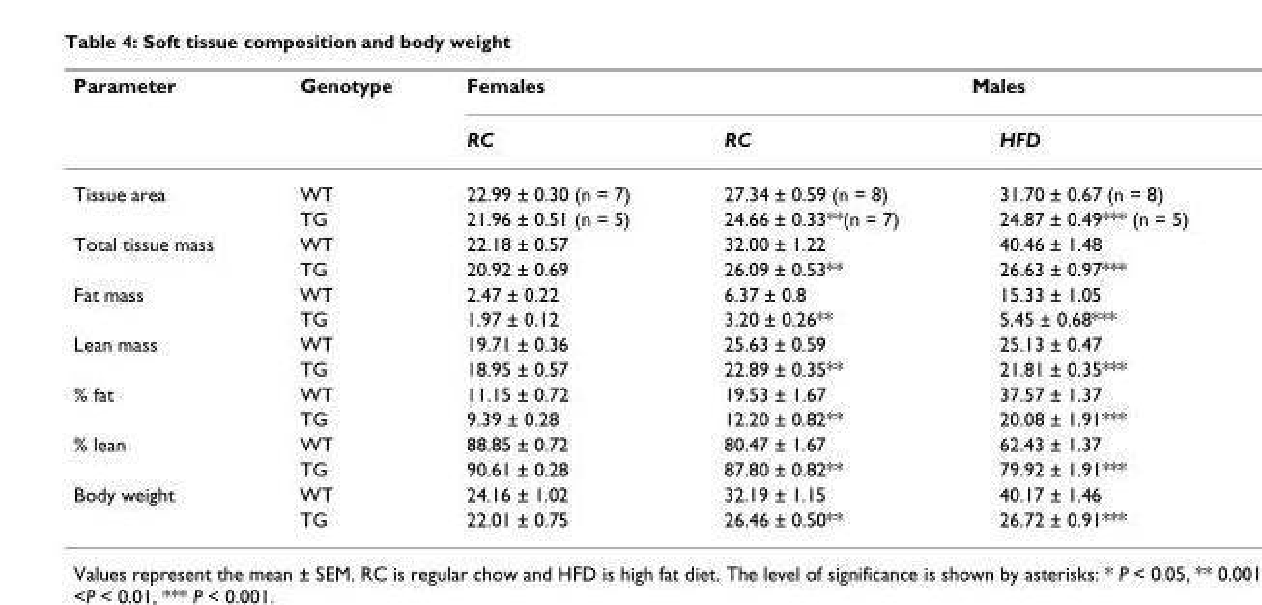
<table><thead><tr><td rowspan="2">Parameter</td><td rowspan="2">Genotype</td><td rowspan="2">Females RC</td><td colspan="2">Males</td></tr><tr><td>RC</td><td>HFD</td></tr></thead><tbody><tr><td rowspan="2">Tissue area</td><td>WT</td><td>22.99 ± 0.30 (n = 7)</td><td>27.34 ± 0.59 (n = 8)</td><td>31.70 ± 0.67 (n = 8)</td></tr><tr><td>TG</td><td>21.96 ± 0.51 (n = 5)</td><td>24.66 ± 0.33**(n = 7)</td><td>24.87 ± 0.49*** (n = 5)</td></tr><tr><td rowspan="2">Total tissue mass</td><td>WT</td><td>22.18 ± 0.57</td><td>32.00 ± 1.22</td><td>40.46 ± 1.48</td></tr><tr><td>TG</td><td>20.92 ± 0.69</td><td>26.09 ± 0.53**</td><td>26.63 ± 0.97***</td></tr><tr><td rowspan="2">Fat mass</td><td>WT</td><td>2.47 ± 0.22</td><td>6.37 ± 0.8</td><td>15.33 ± 1.05</td></tr><tr><td>TG</td><td>1.97 ± 0.12</td><td>3.20 ± 0.26**</td><td>5.45 ± 0.68***</td></tr><tr><td rowspan="2">Lean mass</td><td>WT</td><td>19.71 ± 0.36</td><td>25.63 ± 0.59</td><td>25.13 ± 0.47</td></tr><tr><td>TG</td><td>18.95 ± 0.57</td><td>22.89 ± 0.35**</td><td>21.81 ± 0.35***</td></tr><tr><td rowspan="2">% fat</td><td>WT</td><td>11.15 ± 0.72</td><td>19.53 ± 1.67</td><td>37.57 ± 1.37</td></tr><tr><td>TG</td><td>9.39 ± 0.28</td><td>12.20 ± 0.82**</td><td>20.08 ± 1.91***</td></tr><tr><td rowspan="2">% lean</td><td>WT</td><td>88.85 ± 0.72</td><td>80.47 ± 1.67</td><td>62.43 ± 1.37</td></tr><tr><td>TG</td><td>90.61 ± 0.28</td><td>87.80 ± 0.82**</td><td>79.92 ± 1.91***</td></tr><tr><td rowspan="2">Body weight</td><td>WT</td><td>24.16 ± 1.02</td><td>32.19 ± 1.15</td><td>40.17 ± 1.46</td></tr><tr><td>TG</td><td>22.01 ± 0.75</td><td>26.46 ± 0.50**</td><td>26.72 ± 0.91***</td></tr></tbody></table>